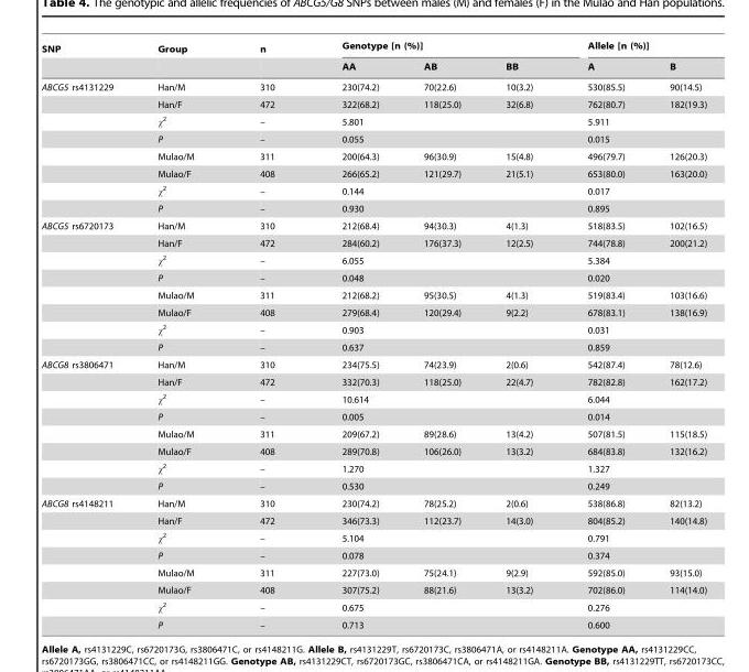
<table><thead><tr><td rowspan="2">SNP</td><td rowspan="2">Group</td><td rowspan="2">n</td><td colspan="3">Genotype [n (%)]</td><td colspan="2">Allele [n (%)]</td></tr><tr><td>AA</td><td>AB</td><td>BB</td><td>A</td><td>B</td></tr></thead><tbody><tr><td rowspan="8">ABCG5 rs4131229</td><td>Han/M</td><td>310</td><td>230(74.2)</td><td>70(22.6)</td><td>10(3.2)</td><td>530(85.5)</td><td>90(14.5)</td></tr><tr><td>Han/F</td><td>472</td><td>322(68.2)</td><td>118(25.0)</td><td>32(6.8)</td><td>762(80.7)</td><td>182(19.3)</td></tr><tr><td>x2</td><td>–</td><td colspan="3">5.801</td><td colspan="2">5.911</td></tr><tr><td>P</td><td>–</td><td colspan="3">0.055</td><td colspan="2">0.015</td></tr><tr><td>Mulao/M</td><td>311</td><td>200(64.3)</td><td>96(30.9)</td><td>15(4.8)</td><td>496(79.7)</td><td>126(20.3)</td></tr><tr><td>Mulao/F</td><td>408</td><td>266(65.2)</td><td>121(29.7)</td><td>21(5.1)</td><td>653(80.0)</td><td>163(20.0)</td></tr><tr><td>x2</td><td>–</td><td colspan="3">0.144</td><td colspan="2">0.017</td></tr><tr><td>P</td><td>–</td><td colspan="3">0.930</td><td colspan="2">0.895</td></tr><tr><td rowspan="8">ABCG5 rs6720173</td><td>Han/M</td><td>310</td><td>212(68.4)</td><td>94(30.3)</td><td>4(1.3)</td><td>518(83.5)</td><td>102(16.5)</td></tr><tr><td>Han/F</td><td>472</td><td>284(60.2)</td><td>176(37.3)</td><td>12(2.5)</td><td>744(78.8)</td><td>200(21.2)</td></tr><tr><td>x2</td><td>–</td><td colspan="3">6.055</td><td colspan="2">5.384</td></tr><tr><td>P</td><td>–</td><td colspan="3">0.048</td><td colspan="2">0.020</td></tr><tr><td>Mulao/M</td><td>311</td><td>212(68.2)</td><td>95(30.5)</td><td>4(1.3)</td><td>519(83.4)</td><td>103(16.6)</td></tr><tr><td>Mulao/F</td><td>408</td><td>279(68.4)</td><td>120(29.4)</td><td>9(2.2)</td><td>678(83.1)</td><td>138(16.9)</td></tr><tr><td>x2</td><td>–</td><td colspan="3">0.903</td><td colspan="2">0.031</td></tr><tr><td>P</td><td>–</td><td colspan="3">0.637</td><td colspan="2">0.859</td></tr><tr><td rowspan="8">ABCG8 rs3806471</td><td>Han/M</td><td>310</td><td>234(75.5)</td><td>74(23.9)</td><td>2(0.6)</td><td>542(87.4)</td><td>78(12.6)</td></tr><tr><td>Han/F</td><td>472</td><td>332(70.3)</td><td>118(25.0)</td><td>22(4.7)</td><td>782(82.8)</td><td>162(17.2)</td></tr><tr><td>x2</td><td>–</td><td colspan="3">10.614</td><td colspan="2">6.044</td></tr><tr><td>P</td><td>–</td><td colspan="3">0.005</td><td colspan="2">0.014</td></tr><tr><td>Mulao/M</td><td>311</td><td>209(67.2)</td><td>89(28.6)</td><td>13(4.2)</td><td>507(81.5)</td><td>115(18.5)</td></tr><tr><td>Mulao/F</td><td>408</td><td>289(70.8)</td><td>106(26.0)</td><td>13(3.2)</td><td>684(83.8)</td><td>132(16.2)</td></tr><tr><td>x2</td><td>–</td><td colspan="3">1.270</td><td colspan="2">1.327</td></tr><tr><td>P</td><td>–</td><td colspan="3">0.530</td><td colspan="2">0.249</td></tr><tr><td rowspan="8">ABCG8 rs4148211</td><td>Han/M</td><td>310</td><td>230(74.2)</td><td>78(25.2)</td><td>2(0.6)</td><td>538(86.8)</td><td>82(13.2)</td></tr><tr><td>Han/F</td><td>472</td><td>346(73.3)</td><td>112(23.7)</td><td>14(3.0)</td><td>804(85.2)</td><td>140(14.8)</td></tr><tr><td>x2</td><td>–</td><td colspan="3">5.104</td><td colspan="2">0.791</td></tr><tr><td>P</td><td>–</td><td colspan="3">0.078</td><td colspan="2">0.374</td></tr><tr><td>Mulao/M</td><td>311</td><td>227(73.0)</td><td>75(24.1)</td><td>9(2.9)</td><td>592(85.0)</td><td>93(15.0)</td></tr><tr><td>Mulao/F</td><td>408</td><td>307(75.2)</td><td>88(21.6)</td><td>13(3.2)</td><td>702(86.0)</td><td>114(14.0)</td></tr><tr><td>x2</td><td>–</td><td colspan="3">0.675</td><td colspan="2">0.276</td></tr><tr><td>P</td><td>–</td><td colspan="3">0.713</td><td colspan="2">0.600</td></tr></tbody></table>